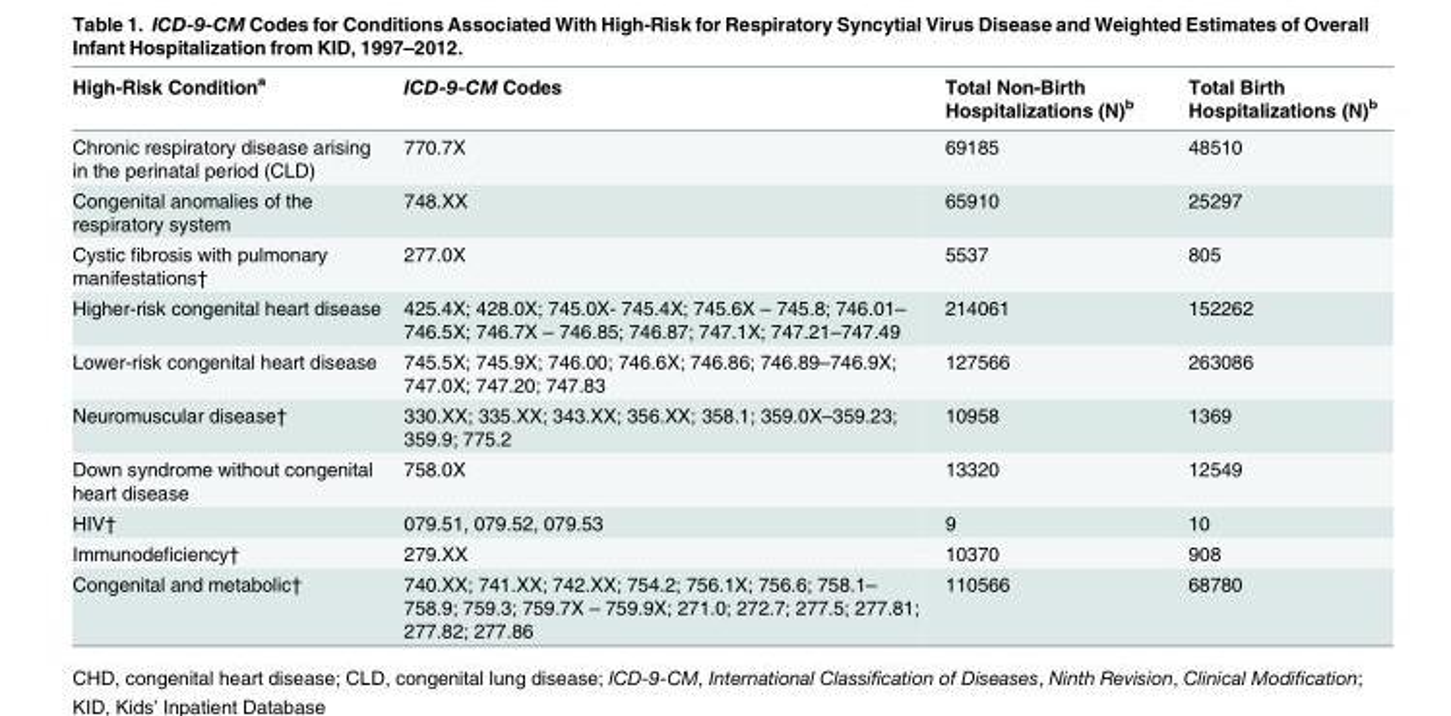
<table><thead><tr><td>High-Risk Condition<sup>a</sup></td><td>ICD-9-CM Codes</td><td>Total Non-Birth Hospitalizations (N)<sup>b</sup></td><td>Total Birth Hospitalizations (N)<sup>b</sup></td></tr></thead><tbody><tr><td>Chronic respiratory disease arising in the perinatal period (CLD)</td><td>770.7X</td><td>69185</td><td>48510</td></tr><tr><td>Congenital anomalies of the respiratory system</td><td>748.XX</td><td>65910</td><td>25297</td></tr><tr><td>Cystic fibrosis with pulmonary manifestations†</td><td>277.0X</td><td>5537</td><td>805</td></tr><tr><td>Higher-risk congenital heart disease</td><td>425.4X; 428.0X; 745.0X- 745.4X; 745.6X – 745.8; 746.01– 746.5X; 746.7X – 746.85; 746.87; 747.1X; 747.21–747.49</td><td>214061</td><td>152262</td></tr><tr><td>Lower-risk congenital heart disease</td><td>745.5X; 745.9X; 746.00; 746.6X; 746.86; 746.89–746.9X; 747.0X; 747.20; 747.83</td><td>127566</td><td>263086</td></tr><tr><td>Neuromuscular disease†</td><td>330.XX; 335.XX; 343.XX; 356.XX; 358.1; 359.0X–359.23; 359.9; 775.2</td><td>10958</td><td>1369</td></tr><tr><td>Down syndrome without congenital heart disease</td><td>758.0X</td><td>13320</td><td>12549</td></tr><tr><td>HIV†</td><td>079.51, 079.52, 079.53</td><td>9</td><td>10</td></tr><tr><td>Immunodeficiency†</td><td>279.XX</td><td>10370</td><td>908</td></tr><tr><td>Congenital and metabolic†</td><td>740.XX; 741.XX; 742.XX; 754.2; 756.1X; 756.6; 758.1– 758.9; 759.3; 759.7X – 759.9X; 271.0; 272.7; 277.5; 277.81; 277.82; 277.86</td><td>110566</td><td>68780</td></tr></tbody></table>